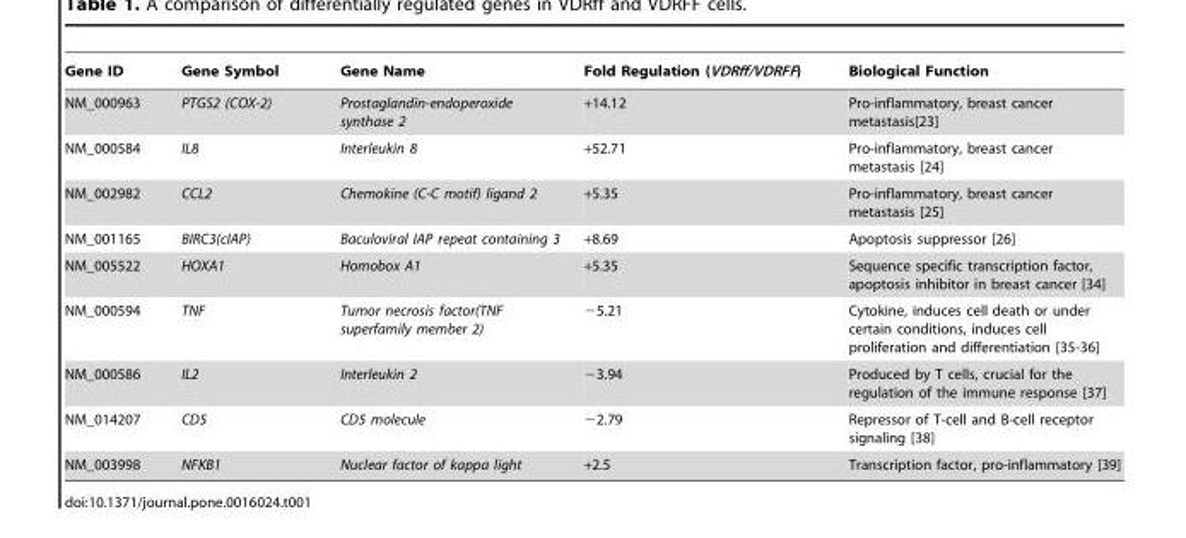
<table><thead><tr><td>Gene ID</td><td>Gene Symbol</td><td>Gene Name</td><td>Fold Regulation (VDRff/VDRFF)</td><td>Biological Function</td></tr></thead><tbody><tr><td>NM_000963</td><td>PTGS2 (COX-2)</td><td>Prostaglandin-endoperoxide synthase 2</td><td>+14.12</td><td>Pro-inflammatory, breast cancer metastasis[23]</td></tr><tr><td>NM_000584</td><td>IL8</td><td>Interleukin 8</td><td>+52.71</td><td>Pro-inflammatory, breast cancer metastasis [24]</td></tr><tr><td>NM_002982</td><td>CCL2</td><td>Chemokine (C-C motif) ligand 2</td><td>+5.35</td><td>Pro-inflammatory, breast cancer metastasis [25]</td></tr><tr><td>NM_001165</td><td>BIRC3(cIAP)</td><td>Baculoviral IAP repeat containing 3</td><td>+8.69</td><td>Apoptosis suppressor [26]</td></tr><tr><td>NM_005522</td><td>HOXA1</td><td>Homobox A1</td><td>+5.35</td><td>Sequence specific transcription factor, apoptosis inhibitor in breast cancer [34]</td></tr><tr><td>NM_000594</td><td>TNF</td><td>Tumor necrosis factor(TNF superfamily member 2)</td><td>−5.21</td><td>Cytokine, induces cell death or under certain conditions, induces cell proliferation and differentiation [35-36]</td></tr><tr><td>NM_000586</td><td>IL2</td><td>Interleukin 2</td><td>−3.94</td><td>Produced by T cells, crucial for the regulation of the immune response [37]</td></tr><tr><td>NM_014207</td><td>CD5</td><td>CD5 molecule</td><td>−2.79</td><td>Repressor of T-cell and B-cell receptor signaling [38]</td></tr><tr><td>NM_003998</td><td>NFKB1</td><td>Nuclear factor of kappa light</td><td>+2.5</td><td>Transcription factor, pro-inflammatory [39]</td></tr></tbody></table>